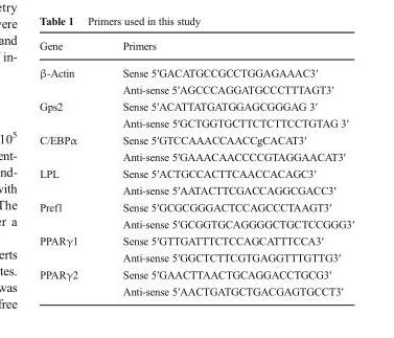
<table><thead><tr><td>Gene</td><td>Primers</td></tr></thead><tbody><tr><td rowspan="2">β-Actin</td><td>Sense 5′GACATGCCGCCTGGAGAAAC3′</td></tr><tr><td>Anti-sense 5′AGCCCAGGATGCCCTTTAGT3′</td></tr><tr><td rowspan="2">Gps2</td><td>Sense 5′ACATTATGATGGAGCGGGAG 3′</td></tr><tr><td>Anti-sense 5′GCTGGTGCTTCTCTTCCTGTAG 3′</td></tr><tr><td rowspan="2">C/EBPα</td><td>Sense 5′GTCCAAACCAACCgCACAT3′</td></tr><tr><td>Anti-sense 5′GAAACAACCCCGTAGGAACAT3′</td></tr><tr><td rowspan="2">LPL</td><td>Sense 5′ACTGCCACTTCAACCACAGC3′</td></tr><tr><td>Anti-sense 5′AATACTTCGACCAGGCGACC3′</td></tr><tr><td rowspan="2">Pref1</td><td>Sense 5′GCGCGGGACTCCAGCCCTAAGT3′</td></tr><tr><td>Anti-sense 5′GCGGTGCAGGGGCTGCTCCGGG3′</td></tr><tr><td rowspan="2">PPARγ1</td><td>Sense 5′GTTGATTTCTCCAGCATTTCCA3′</td></tr><tr><td>Anti-sense 5′GGCTCTTCGTGAGGTTTGTTG3′</td></tr><tr><td rowspan="2">PPARγ2</td><td>Sense 5′GAACTTAACTGCAGGACCTGCG3′</td></tr><tr><td>Anti-sense 5′AACTGATGCTGACGAGTGCCT3′</td></tr></tbody></table>